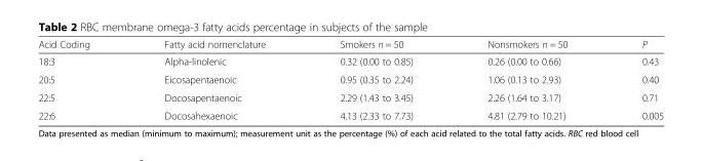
<table><thead><tr><td>Acid Coding</td><td>Fatty acid nomenclature</td><td>Smokers n = 50</td><td>Nonsmokers n = 50</td><td>P</td></tr></thead><tbody><tr><td>18:3</td><td>Alpha-linolenic</td><td>0.32 (0.00 to 0.85)</td><td>0.26 (0.00 to 0.66)</td><td>0.43</td></tr><tr><td>20:5</td><td>Eicosapentaenoic</td><td>0.95 (0.35 to 2.24)</td><td>1.06 (0.13 to 2.93)</td><td>0.40</td></tr><tr><td>22:5</td><td>Docosapentaenoic</td><td>2.29 (1.43 to 3.45)</td><td>2.26 (1.64 to 3.17)</td><td>0.71</td></tr><tr><td>22:6</td><td>Docosahexaenoic</td><td>4.13 (2.33 to 7.73)</td><td>4.81 (2.79 to 10.21)</td><td>0.005</td></tr></tbody></table>